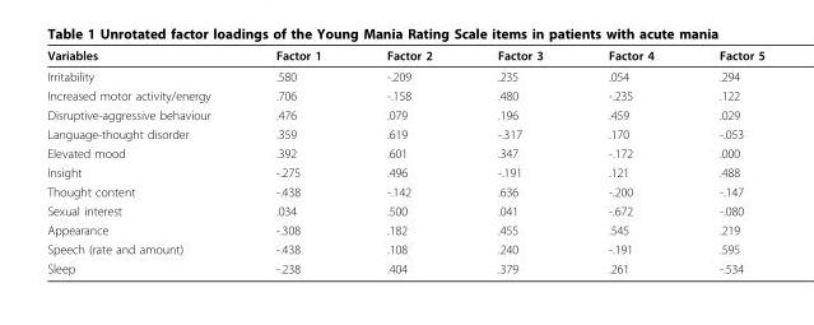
<table><thead><tr><td>Variables</td><td>Factor 1</td><td>Factor 2</td><td>Factor 3</td><td>Factor 4</td><td>Factor 5</td></tr></thead><tbody><tr><td>Irritability</td><td>.580</td><td>-.209</td><td>.235</td><td>.054</td><td>.294</td></tr><tr><td>Increased motor activity/energy</td><td>.706</td><td>-.158</td><td>.480</td><td>-.235</td><td>.122</td></tr><tr><td>Disruptive-aggressive behaviour</td><td>.476</td><td>.079</td><td>.196</td><td>.459</td><td>.029</td></tr><tr><td>Language-thought disorder</td><td>.359</td><td>.619</td><td>-.317</td><td>.170</td><td>-.053</td></tr><tr><td>Elevated mood</td><td>.392</td><td>.601</td><td>.347</td><td>-.172</td><td>.000</td></tr><tr><td>Insight</td><td>-.275</td><td>.496</td><td>-.191</td><td>.121</td><td>.488</td></tr><tr><td>Thought content</td><td>-.438</td><td>-.142</td><td>.636</td><td>-.200</td><td>-.147</td></tr><tr><td>Sexual interest</td><td>.034</td><td>.500</td><td>.041</td><td>-.672</td><td>-.080</td></tr><tr><td>Appearance</td><td>-.308</td><td>.182</td><td>.455</td><td>.545</td><td>.219</td></tr><tr><td>Speech (rate and amount)</td><td>-.438</td><td>.108</td><td>.240</td><td>-.191</td><td>.595</td></tr><tr><td>Sleep</td><td>-.238</td><td>.404</td><td>.379</td><td>.261</td><td>-.534</td></tr></tbody></table>